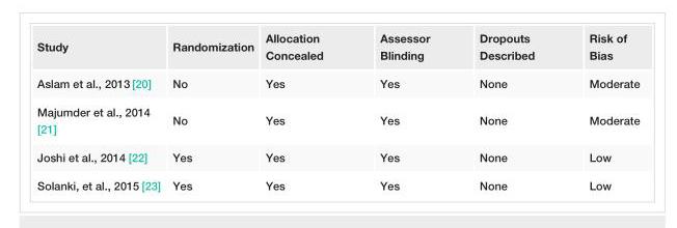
<table><tbody><tr><td>Study</td><td>Randomization</td><td>Allocation Concealed</td><td>Assessor Blinding</td><td>Dropouts Described</td><td>Risk of Bias</td></tr><tr><td>Aslam et al., 2013 [20]</td><td>No</td><td>Yes</td><td>Yes</td><td>None</td><td>Moderate</td></tr><tr><td>Majumder et al., 2014 [21]</td><td>No</td><td>Yes</td><td>Yes</td><td>None</td><td>Moderate</td></tr><tr><td>Joshi et al., 2014 [22]</td><td>Yes</td><td>Yes</td><td>Yes</td><td>None</td><td>Low</td></tr><tr><td>Solanki, et al., 2015 [23]</td><td>Yes</td><td>Yes</td><td>Yes</td><td>None</td><td>Low</td></tr></tbody></table>